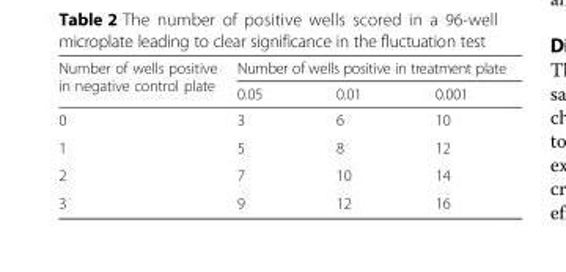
<table><thead><tr><td rowspan="2">Number of wells positive in negative control plate</td><td colspan="3">Number of wells positive in treatment plate</td></tr><tr><td>0.05</td><td>0.01</td><td>0.001</td></tr></thead><tbody><tr><td>0</td><td>3</td><td>6</td><td>10</td></tr><tr><td>1</td><td>5</td><td>8</td><td>12</td></tr><tr><td>2</td><td>7</td><td>10</td><td>14</td></tr><tr><td>3</td><td>9</td><td>12</td><td>16</td></tr></tbody></table>